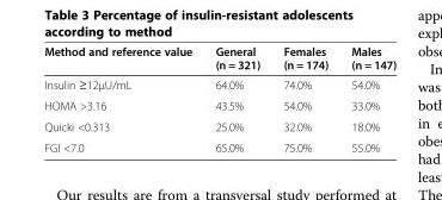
<table><thead><tr><td>Method and reference value</td><td>General (n = 321)</td><td>Females (n = 174)</td><td>Males (n = 147)</td></tr></thead><tbody><tr><td>Insulin ≥12μU/mL</td><td>64.0%</td><td>74.0%</td><td>54.0%</td></tr><tr><td>HOMA &gt;3.16</td><td>43.5%</td><td>54.0%</td><td>33.0%</td></tr><tr><td>Quicki &lt;0.313</td><td>25.0%</td><td>32.0%</td><td>18.0%</td></tr><tr><td>FGI &lt;7.0</td><td>65.0%</td><td>75.0%</td><td>55.0%</td></tr></tbody></table>